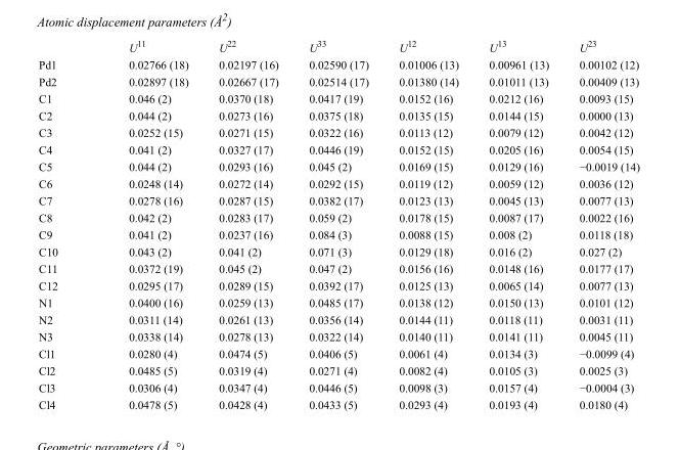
<table><thead><tr><td></td><td>U<sup>11</sup></td><td>U<sup>22</sup></td><td>U<sup>33</sup></td><td>U<sup>12</sup></td><td>U<sup>13</sup></td><td>U<sup>23</sup></td></tr></thead><tbody><tr><td>Pd1</td><td>0.02766 (18)</td><td>0.02197 (16)</td><td>0.02590 (17)</td><td>0.01006 (13)</td><td>0.00961 (13)</td><td>0.00102 (12)</td></tr><tr><td>Pd2</td><td>0.02897 (18)</td><td>0.02667 (17)</td><td>0.02514 (17)</td><td>0.01380 (14)</td><td>0.01011 (13)</td><td>0.00409 (13)</td></tr><tr><td>C1</td><td>0.046 (2)</td><td>0.0370 (18)</td><td>0.0417 (19)</td><td>0.0152 (16)</td><td>0.0212 (16)</td><td>0.0093 (15)</td></tr><tr><td>C2</td><td>0.044 (2)</td><td>0.0273 (16)</td><td>0.0375 (18)</td><td>0.0135 (15)</td><td>0.0144 (15)</td><td>0.0000 (13)</td></tr><tr><td>C3</td><td>0.0252 (15)</td><td>0.0271 (15)</td><td>0.0322 (16)</td><td>0.0113 (12)</td><td>0.0079 (12)</td><td>0.0042 (12)</td></tr><tr><td>C4</td><td>0.041 (2)</td><td>0.0327 (17)</td><td>0.0446 (19)</td><td>0.0152 (15)</td><td>0.0205 (16)</td><td>0.0054 (15)</td></tr><tr><td>C5</td><td>0.044 (2)</td><td>0.0293 (16)</td><td>0.045 (2)</td><td>0.0169 (15)</td><td>0.0129 (16)</td><td>−0.0019 (14)</td></tr><tr><td>C6</td><td>0.0248 (14)</td><td>0.0272 (14)</td><td>0.0292 (15)</td><td>0.0119 (12)</td><td>0.0059 (12)</td><td>0.0036 (12)</td></tr><tr><td>C7</td><td>0.0278 (16)</td><td>0.0287 (15)</td><td>0.0382 (17)</td><td>0.0123 (13)</td><td>0.0045 (13)</td><td>0.0077 (13)</td></tr><tr><td>C8</td><td>0.042 (2)</td><td>0.0283 (17)</td><td>0.059 (2)</td><td>0.0178 (15)</td><td>0.0087 (17)</td><td>0.0022 (16)</td></tr><tr><td>C9</td><td>0.041 (2)</td><td>0.0237 (16)</td><td>0.084 (3)</td><td>0.0088 (15)</td><td>0.008 (2)</td><td>0.0118 (18)</td></tr><tr><td>C10</td><td>0.043 (2)</td><td>0.041 (2)</td><td>0.071 (3)</td><td>0.0129 (18)</td><td>0.016 (2)</td><td>0.027 (2)</td></tr><tr><td>C11</td><td>0.0372 (19)</td><td>0.045 (2)</td><td>0.047 (2)</td><td>0.0156 (16)</td><td>0.0148 (16)</td><td>0.0177 (17)</td></tr><tr><td>C12</td><td>0.0295 (17)</td><td>0.0289 (15)</td><td>0.0392 (17)</td><td>0.0125 (13)</td><td>0.0065 (14)</td><td>0.0077 (13)</td></tr><tr><td>N1</td><td>0.0400 (16)</td><td>0.0259 (13)</td><td>0.0485 (17)</td><td>0.0138 (12)</td><td>0.0150 (13)</td><td>0.0101 (12)</td></tr><tr><td>N2</td><td>0.0311 (14)</td><td>0.0261 (13)</td><td>0.0356 (14)</td><td>0.0144 (11)</td><td>0.0118 (11)</td><td>0.0031 (11)</td></tr><tr><td>N3</td><td>0.0338 (14)</td><td>0.0278 (13)</td><td>0.0322 (14)</td><td>0.0140 (11)</td><td>0.0141 (11)</td><td>0.0045 (11)</td></tr><tr><td>Cl1</td><td>0.0280 (4)</td><td>0.0474 (5)</td><td>0.0406 (5)</td><td>0.0061 (4)</td><td>0.0134 (3)</td><td>−0.0099 (4)</td></tr><tr><td>Cl2</td><td>0.0485 (5)</td><td>0.0319 (4)</td><td>0.0271 (4)</td><td>0.0082 (4)</td><td>0.0105 (3)</td><td>0.0025 (3)</td></tr><tr><td>Cl3</td><td>0.0306 (4)</td><td>0.0347 (4)</td><td>0.0446 (5)</td><td>0.0098 (3)</td><td>0.0157 (4)</td><td>−0.0004 (3)</td></tr><tr><td>Cl4</td><td>0.0478 (5)</td><td>0.0428 (4)</td><td>0.0433 (5)</td><td>0.0293 (4)</td><td>0.0193 (4)</td><td>0.0180 (4)</td></tr></tbody></table>